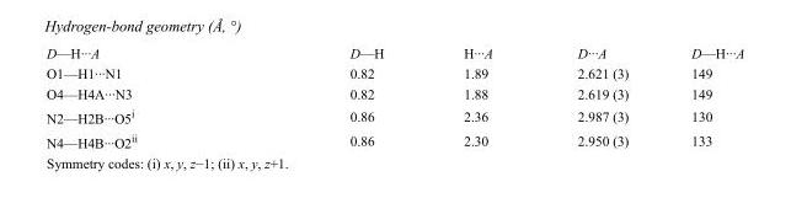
<table><tbody><tr><td>D—H···A</td><td>D—H</td><td>H···A</td><td>D···A</td><td>D—H···A</td></tr><tr><td>O1—H1···N1</td><td>0.82</td><td>1.89</td><td>2.621 (3)</td><td>149</td></tr><tr><td>O4—H4A···N3</td><td>0.82</td><td>1.88</td><td>2.619 (3)</td><td>149</td></tr><tr><td>N2—H2B···O5<sup>i</sup></td><td>0.86</td><td>2.36</td><td>2.987 (3)</td><td>130</td></tr><tr><td>N4—H4B···O2<sup>ii</sup></td><td>0.86</td><td>2.30</td><td>2.950 (3)</td><td>133</td></tr></tbody></table>